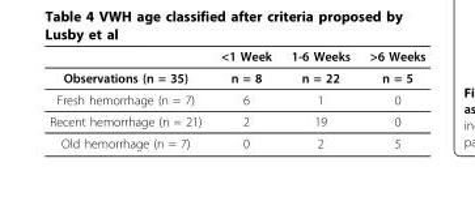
<table><thead><tr><td></td><td>&lt;1 Week</td><td>1-6 Weeks</td><td>&gt;6 Weeks</td></tr></thead><tbody><tr><td>Observations (n = 35)</td><td>n = 8</td><td>n = 22</td><td>n = 5</td></tr><tr><td>Fresh hemorrhage (n = 7)</td><td>6</td><td>1</td><td>0</td></tr><tr><td>Recent hemorrhage (n = 21)</td><td>2</td><td>19</td><td>0</td></tr><tr><td>Old hemorrhage (n = 7)</td><td>0</td><td>2</td><td>5</td></tr></tbody></table>